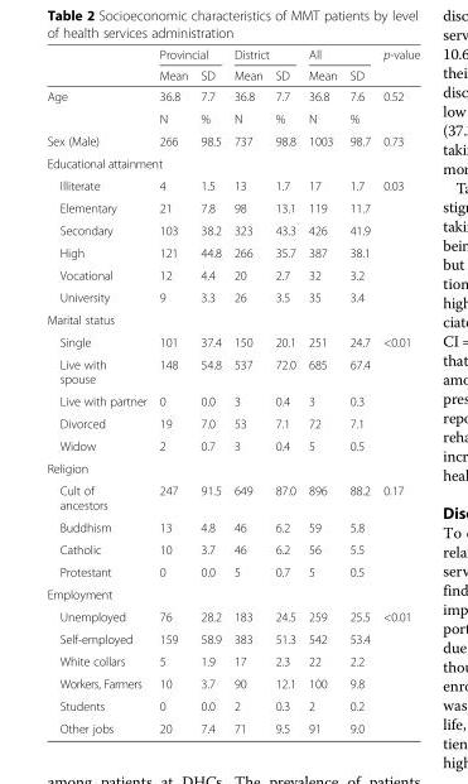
<table><thead><tr><td rowspan="2"></td><td colspan="2">Provincial</td><td colspan="2">District</td><td colspan="2">All</td><td rowspan="2">p-value</td></tr><tr><td>Mean</td><td>SD</td><td>Mean</td><td>SD</td><td>Mean</td><td>SD</td></tr></thead><tbody><tr><td rowspan="2">Age</td><td>36.8</td><td>7.7</td><td>36.8</td><td>7.7</td><td>36.8</td><td>7.6</td><td>0.52</td></tr><tr><td>N</td><td>%</td><td>N</td><td>%</td><td>N</td><td>%</td><td></td></tr><tr><td>Sex (Male)</td><td>266</td><td>98.5</td><td>737</td><td>98.8</td><td>1003</td><td>98.7</td><td>0.73</td></tr><tr><td colspan="8">Educational attainment</td></tr><tr><td>Illiterate</td><td>4</td><td>1.5</td><td>13</td><td>1.7</td><td>17</td><td>1.7</td><td>0.03</td></tr><tr><td>Elementary</td><td>21</td><td>7.8</td><td>98</td><td>13.1</td><td>119</td><td>11.7</td><td></td></tr><tr><td>Secondary</td><td>103</td><td>38.2</td><td>323</td><td>43.3</td><td>426</td><td>41.9</td><td></td></tr><tr><td>High</td><td>121</td><td>44.8</td><td>266</td><td>35.7</td><td>387</td><td>38.1</td><td></td></tr><tr><td>Vocational</td><td>12</td><td>4.4</td><td>20</td><td>2.7</td><td>32</td><td>3.2</td><td></td></tr><tr><td>University</td><td>9</td><td>3.3</td><td>26</td><td>3.5</td><td>35</td><td>3.4</td><td></td></tr><tr><td colspan="8">Marital status</td></tr><tr><td>Single</td><td>101</td><td>37.4</td><td>150</td><td>20.1</td><td>251</td><td>24.7</td><td>&lt;0.01</td></tr><tr><td>Live with spouse</td><td>148</td><td>54.8</td><td>537</td><td>72.0</td><td>685</td><td>67.4</td><td></td></tr><tr><td>Live with partner</td><td>0</td><td>0.0</td><td>3</td><td>0.4</td><td>3</td><td>0.3</td><td></td></tr><tr><td>Divorced</td><td>19</td><td>7.0</td><td>53</td><td>7.1</td><td>72</td><td>7.1</td><td></td></tr><tr><td>Widow</td><td>2</td><td>0.7</td><td>3</td><td>0.4</td><td>5</td><td>0.5</td><td></td></tr><tr><td colspan="8">Religion</td></tr><tr><td>Cult of ancestors</td><td>247</td><td>91.5</td><td>649</td><td>87.0</td><td>896</td><td>88.2</td><td>0.17</td></tr><tr><td>Buddhism</td><td>13</td><td>4.8</td><td>46</td><td>6.2</td><td>59</td><td>5.8</td><td></td></tr><tr><td>Catholic</td><td>10</td><td>3.7</td><td>46</td><td>6.2</td><td>56</td><td>5.5</td><td></td></tr><tr><td>Protestant</td><td>0</td><td>0.0</td><td>5</td><td>0.7</td><td>5</td><td>0.5</td><td></td></tr><tr><td colspan="8">Employment</td></tr><tr><td>Unemployed</td><td>76</td><td>28.2</td><td>183</td><td>24.5</td><td>259</td><td>25.5</td><td>&lt;0.01</td></tr><tr><td>Self-employed</td><td>159</td><td>58.9</td><td>383</td><td>51.3</td><td>542</td><td>53.4</td><td></td></tr><tr><td>White collars</td><td>5</td><td>1.9</td><td>17</td><td>2.3</td><td>22</td><td>2.2</td><td></td></tr><tr><td>Workers, Farmers</td><td>10</td><td>3.7</td><td>90</td><td>12.1</td><td>100</td><td>9.8</td><td></td></tr><tr><td>Students</td><td>0</td><td>0.0</td><td>2</td><td>0.3</td><td>2</td><td>0.2</td><td></td></tr><tr><td>Other jobs</td><td>20</td><td>7.4</td><td>71</td><td>9.5</td><td>91</td><td>9.0</td><td></td></tr></tbody></table>